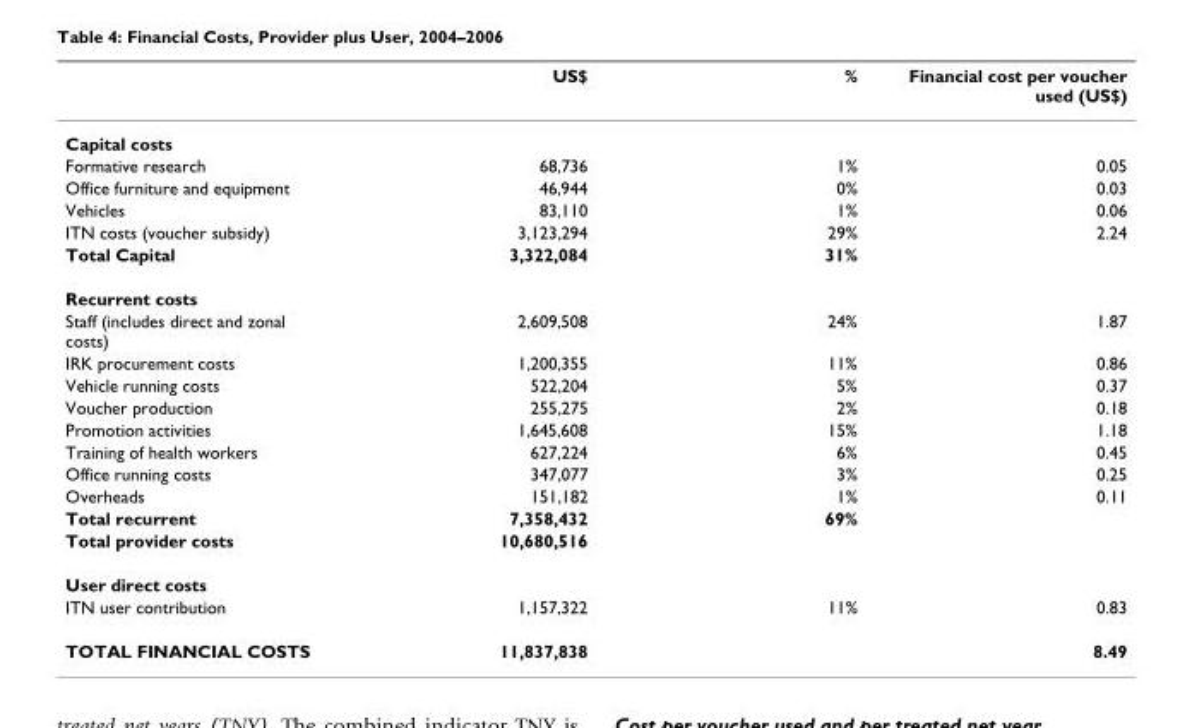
<table><thead><tr><td></td><td>US$</td><td>%</td><td>Financial cost per voucher used (US$)</td></tr></thead><tbody><tr><td colspan="4">Capital costs</td></tr><tr><td>Formative research</td><td>68,736</td><td>1%</td><td>0.05</td></tr><tr><td>Office furniture and equipment</td><td>46,944</td><td>0%</td><td>0.03</td></tr><tr><td>Vehicles</td><td>83,110</td><td>1%</td><td>0.06</td></tr><tr><td>ITN costs (voucher subsidy)</td><td>3,123,294</td><td>29%</td><td>2.24</td></tr><tr><td>Total Capital</td><td>3,322,084</td><td>31%</td><td></td></tr><tr><td colspan="4">Recurrent costs</td></tr><tr><td>Staff (includes direct and zonal costs)</td><td>2,609,508</td><td>24%</td><td>1.87</td></tr><tr><td>IRK procurement costs</td><td>1,200,355</td><td>11%</td><td>0.86</td></tr><tr><td>Vehicle running costs</td><td>522,204</td><td>5%</td><td>0.37</td></tr><tr><td>Voucher production</td><td>255,275</td><td>2%</td><td>0.18</td></tr><tr><td>Promotion activities</td><td>1,645,608</td><td>15%</td><td>1.18</td></tr><tr><td>Training of health workers</td><td>627,224</td><td>6%</td><td>0.45</td></tr><tr><td>Office running costs</td><td>347,077</td><td>3%</td><td>0.25</td></tr><tr><td>Overheads</td><td>151,182</td><td>1%</td><td>0.11</td></tr><tr><td>Total recurrent</td><td>7,358,432</td><td>69%</td><td></td></tr><tr><td>Total provider costs</td><td>10,680,516</td><td></td><td></td></tr><tr><td colspan="4">User direct costs</td></tr><tr><td>ITN user contribution</td><td>1,157,322</td><td>11%</td><td>0.83</td></tr><tr><td>TOTAL FINANCIAL COSTS</td><td>11,837,838</td><td></td><td>8.49</td></tr></tbody></table>